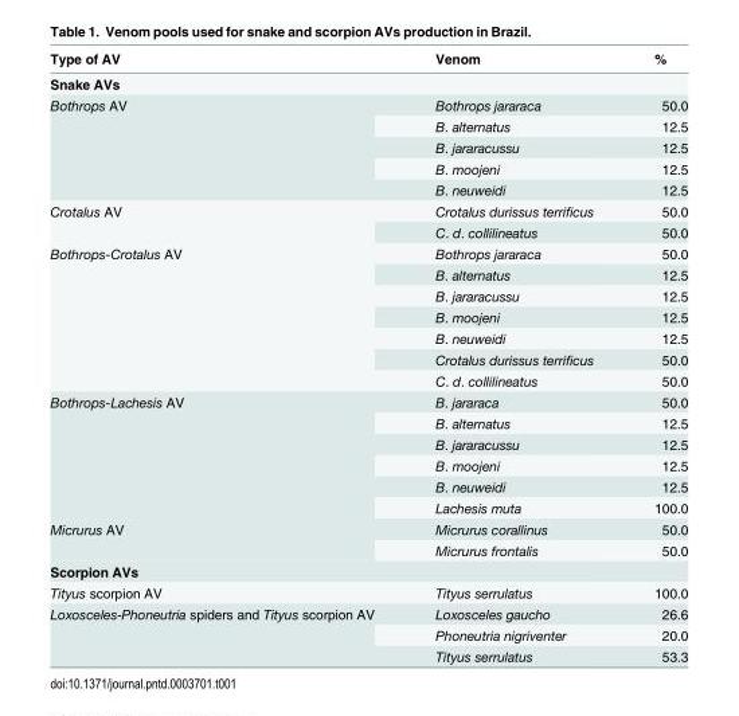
<table><thead><tr><td>Type of AV</td><td>Venom</td><td>%</td></tr></thead><tbody><tr><td colspan="3">Snake AVs</td></tr><tr><td rowspan="5">Bothrops AV</td><td>Bothrops jararaca</td><td>50.0</td></tr><tr><td>B. alternatus</td><td>12.5</td></tr><tr><td>B. jararacussu</td><td>12.5</td></tr><tr><td>B. moojeni</td><td>12.5</td></tr><tr><td>B. neuweidi</td><td>12.5</td></tr><tr><td rowspan="2">Crotalus AV</td><td>Crotalus durissus terrificus</td><td>50.0</td></tr><tr><td>C. d. collilineatus</td><td>50.0</td></tr><tr><td rowspan="7">Bothrops-Crotalus AV</td><td>Bothrops jararaca</td><td>50.0</td></tr><tr><td>B. alternatus</td><td>12.5</td></tr><tr><td>B. jararacussu</td><td>12.5</td></tr><tr><td>B. moojeni</td><td>12.5</td></tr><tr><td>B. neuweidi</td><td>12.5</td></tr><tr><td>Crotalus durissus terrificus</td><td>50.0</td></tr><tr><td>C. d. collilineatus</td><td>50.0</td></tr><tr><td rowspan="6">Bothrops-Lachesis AV</td><td>B. jararaca</td><td>50.0</td></tr><tr><td>B. alternatus</td><td>12.5</td></tr><tr><td>B. jararacussu</td><td>12.5</td></tr><tr><td>B. moojeni</td><td>12.5</td></tr><tr><td>B. neuweidi</td><td>12.5</td></tr><tr><td>Lachesis muta</td><td>100.0</td></tr><tr><td rowspan="2">Micrurus AV</td><td>Micrurus corallinus</td><td>50.0</td></tr><tr><td>Micrurus frontalis</td><td>50.0</td></tr><tr><td colspan="3">Scorpion AVs</td></tr><tr><td>Tityus scorpion AV</td><td>Tityus serrulatus</td><td>100.0</td></tr><tr><td rowspan="3">Loxosceles-Phoneutria spiders and Tityus scorpion AV</td><td>Loxosceles gaucho</td><td>26.6</td></tr><tr><td>Phoneutria nigriventer</td><td>20.0</td></tr><tr><td>Tityus serrulatus</td><td>53.3</td></tr></tbody></table>